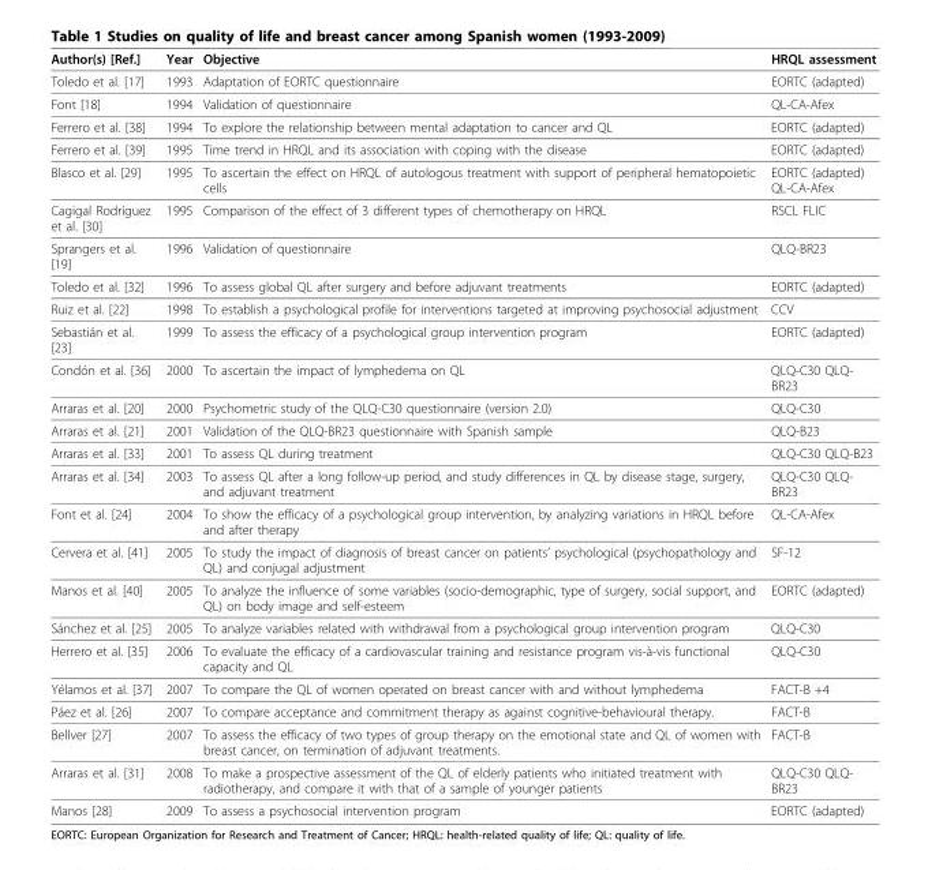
<table><thead><tr><td>Author(s) [Ref.]</td><td>Year</td><td>Objective</td><td>HRQL assessment</td></tr></thead><tbody><tr><td>Toledo et al. [17]</td><td>1993</td><td>Adaptation of EORTC questionnaire</td><td>EORTC (adapted)</td></tr><tr><td>Font [18]</td><td>1994</td><td>Validation of questionnaire</td><td>QL-CA-Afex</td></tr><tr><td>Ferrero et al. [38]</td><td>1994</td><td>To explore the relationship between mental adaptation to cancer and QL</td><td>EORTC (adapted)</td></tr><tr><td>Ferrero et al. [39]</td><td>1995</td><td>Time trend in HRQL and its association with coping with the disease</td><td>EORTC (adapted)</td></tr><tr><td>Blasco et al. [29]</td><td>1995</td><td>To ascertain the effect on HRQL of autologous treatment with support of peripheral hematopoietic cells</td><td>EORTC (adapted) QL-CA-Afex</td></tr><tr><td>Cagigal Rodríguez et al. [30]</td><td>1995</td><td>Comparison of the effect of 3 different types of chemotherapy on HRQL</td><td>RSCL FLIC</td></tr><tr><td>Sprangers et al. [19]</td><td>1996</td><td>Validation of questionnaire</td><td>QLQ-BR23</td></tr><tr><td>Toledo et al. [32]</td><td>1996</td><td>To assess global QL after surgery and before adjuvant treatments</td><td>EORTC (adapted)</td></tr><tr><td>Ruiz et al. [22]</td><td>1998</td><td>To establish a psychological profile for interventions targeted at improving psychosocial adjustment</td><td>CCV</td></tr><tr><td>Sebastián et al. [23]</td><td>1999</td><td>To assess the efficacy of a psychological group intervention program</td><td>EORTC (adapted)</td></tr><tr><td>Condón et al. [36]</td><td>2000</td><td>To ascertain the impact of lymphedema on QL</td><td>QLQ-C30 QLQ- BR23</td></tr><tr><td>Arraras et al. [20]</td><td>2000</td><td>Psychometric study of the QLQ-C30 questionnaire (version 2.0)</td><td>QLQ-C30</td></tr><tr><td>Arraras et al. [21]</td><td>2001</td><td>Validation of the QLQ-BR23 questionnaire with Spanish sample</td><td>QLQ-B23</td></tr><tr><td>Arraras et al. [33]</td><td>2001</td><td>To assess QL during treatment</td><td>QLQ-C30 QLQ-B23</td></tr><tr><td>Arraras et al. [34]</td><td>2003</td><td>To assess QL after a long follow-up period, and study differences in QL by disease stage, surgery, and adjuvant treatment</td><td>QLQ-C30 QLQ- BR23</td></tr><tr><td>Font et al. [24]</td><td>2004</td><td>To show the efficacy of a psychological group intervention, by analyzing variations in HRQL before and after therapy</td><td>QL-CA-Afex</td></tr><tr><td>Cervera et al. [41]</td><td>2005</td><td>To study the impact of diagnosis of breast cancer on patients’ psychological (psychopathology and QL) and conjugal adjustment</td><td>SF-12</td></tr><tr><td>Manos et al. [40]</td><td>2005</td><td>To analyze the influence of some variables (socio-demographic, type of surgery, social support, and QL) on body image and self-esteem</td><td>EORTC (adapted)</td></tr><tr><td>Sánchez et al. [25]</td><td>2005</td><td>To analyze variables related with withdrawal from a psychological group intervention program</td><td>QLQ-C30</td></tr><tr><td>Herrero et al. [35]</td><td>2006</td><td>To evaluate the efficacy of a cardiovascular training and resistance program vis-à-vis functional capacity and QL</td><td>QLQ-C30</td></tr><tr><td>Yélamos et al. [37]</td><td>2007</td><td>To compare the QL of women operated on breast cancer with and without lymphedema</td><td>FACT-B +4</td></tr><tr><td>Páez et al. [26]</td><td>2007</td><td>To compare acceptance and commitment therapy as against cognitive-behavioural therapy.</td><td>FACT-B</td></tr><tr><td>Bellver [27]</td><td>2007</td><td>To assess the efficacy of two types of group therapy on the emotional state and QL of women with breast cancer, on termination of adjuvant treatments.</td><td>FACT-B</td></tr><tr><td>Arraras et al. [31]</td><td>2008</td><td>To make a prospective assessment of the QL of elderly patients who initiated treatment with radiotherapy, and compare it with that of a sample of younger patients</td><td>QLQ-C30 QLQ- BR23</td></tr><tr><td>Manos [28]</td><td>2009</td><td>To assess a psychosocial intervention program</td><td>EORTC (adapted)</td></tr></tbody></table>